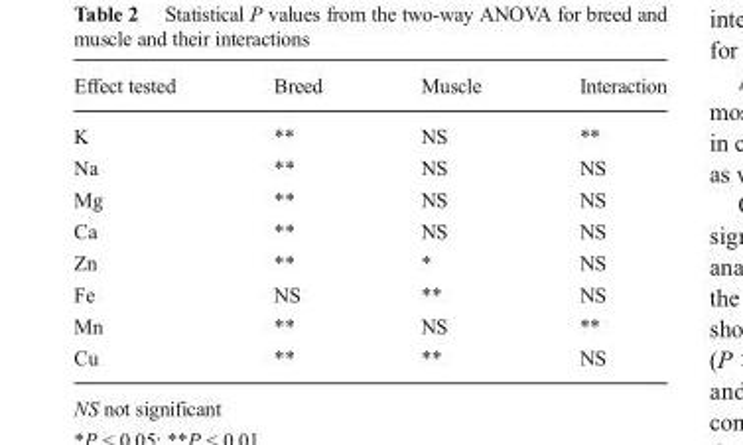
<table><thead><tr><td>Effect tested</td><td>Breed</td><td>Muscle</td><td>Interaction</td></tr></thead><tbody><tr><td>K</td><td>**</td><td>NS</td><td>**</td></tr><tr><td>Na</td><td>**</td><td>NS</td><td>NS</td></tr><tr><td>Mg</td><td>**</td><td>NS</td><td>NS</td></tr><tr><td>Ca</td><td>**</td><td>NS</td><td>NS</td></tr><tr><td>Zn</td><td>**</td><td>*</td><td>NS</td></tr><tr><td>Fe</td><td>NS</td><td>**</td><td>NS</td></tr><tr><td>Mn</td><td>**</td><td>NS</td><td>**</td></tr><tr><td>Cu</td><td>**</td><td>**</td><td>NS</td></tr></tbody></table>